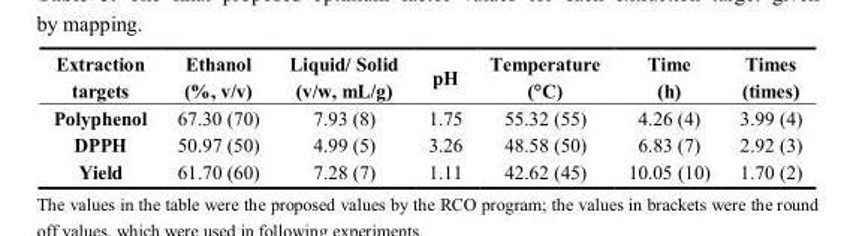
<table><thead><tr><td>Extraction targets</td><td>Ethanol (%, v/v)</td><td>Liquid/ Solid (v/w, mL/g)</td><td>pH</td><td>Temperature (°C)</td><td>Time (h)</td><td>Times (times)</td></tr></thead><tbody><tr><td>Polyphenol</td><td>67.30 (70)</td><td>7.93 (8)</td><td>1.75</td><td>55.32 (55)</td><td>4.26 (4)</td><td>3.99 (4)</td></tr><tr><td>DPPH</td><td>50.97 (50)</td><td>4.99 (5)</td><td>3.26</td><td>48.58 (50)</td><td>6.83 (7)</td><td>2.92 (3)</td></tr><tr><td>Yield</td><td>61.70 (60)</td><td>7.28 (7)</td><td>1.11</td><td>42.62 (45)</td><td>10.05 (10)</td><td>1.70 (2)</td></tr></tbody></table>